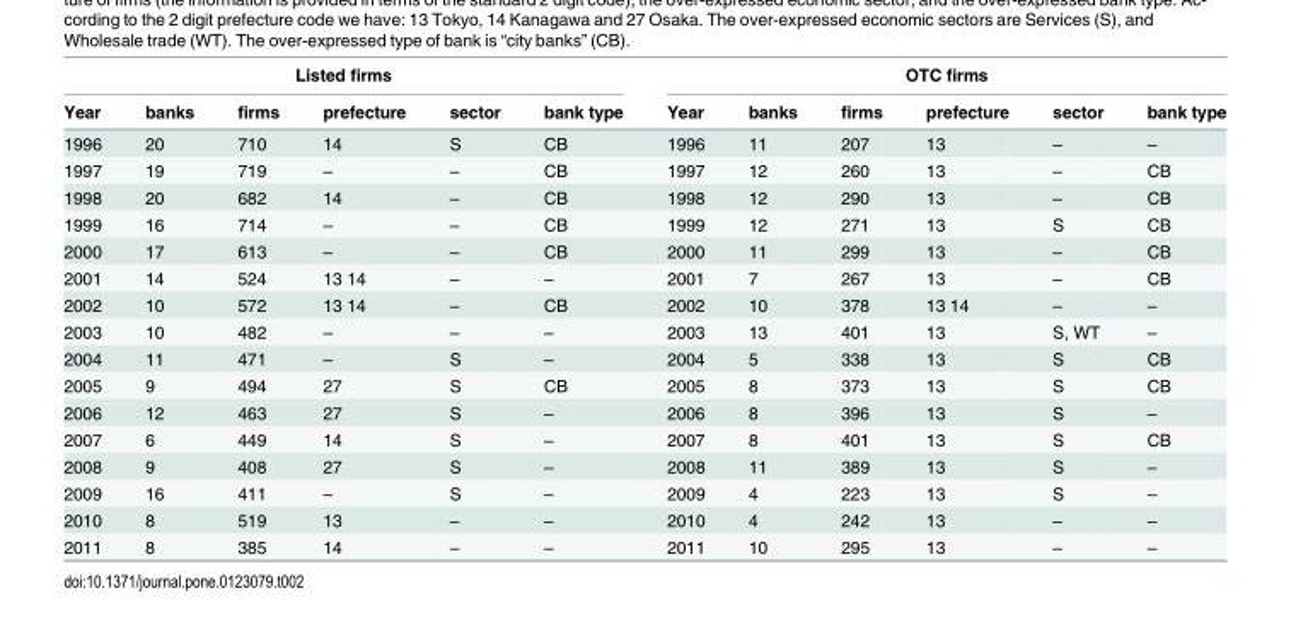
<table><thead><tr><td colspan="6">Listed firms</td><td colspan="6">OTC firms</td></tr><tr><td>Year</td><td>banks</td><td>firms</td><td>prefecture</td><td>sector</td><td>bank type</td><td>Year</td><td>banks</td><td>firms</td><td>prefecture</td><td>sector</td><td>bank type</td></tr></thead><tbody><tr><td>1996</td><td>20</td><td>710</td><td>14</td><td>S</td><td>CB</td><td>1996</td><td>11</td><td>207</td><td>13</td><td>–</td><td>–</td></tr><tr><td>1997</td><td>19</td><td>719</td><td>–</td><td>–</td><td>CB</td><td>1997</td><td>12</td><td>260</td><td>13</td><td>–</td><td>CB</td></tr><tr><td>1998</td><td>20</td><td>682</td><td>14</td><td>–</td><td>CB</td><td>1998</td><td>12</td><td>290</td><td>13</td><td>–</td><td>CB</td></tr><tr><td>1999</td><td>16</td><td>714</td><td>–</td><td>–</td><td>CB</td><td>1999</td><td>12</td><td>271</td><td>13</td><td>S</td><td>CB</td></tr><tr><td>2000</td><td>17</td><td>613</td><td>–</td><td>–</td><td>CB</td><td>2000</td><td>11</td><td>299</td><td>13</td><td>–</td><td>CB</td></tr><tr><td>2001</td><td>14</td><td>524</td><td>13 14</td><td>–</td><td>–</td><td>2001</td><td>7</td><td>267</td><td>13</td><td>–</td><td>CB</td></tr><tr><td>2002</td><td>10</td><td>572</td><td>13 14</td><td>–</td><td>CB</td><td>2002</td><td>10</td><td>378</td><td>13 14</td><td>–</td><td>–</td></tr><tr><td>2003</td><td>10</td><td>482</td><td>–</td><td>–</td><td>–</td><td>2003</td><td>13</td><td>401</td><td>13</td><td>S, WT</td><td>–</td></tr><tr><td>2004</td><td>11</td><td>471</td><td>–</td><td>S</td><td>–</td><td>2004</td><td>5</td><td>338</td><td>13</td><td>S</td><td>CB</td></tr><tr><td>2005</td><td>9</td><td>494</td><td>27</td><td>S</td><td>CB</td><td>2005</td><td>8</td><td>373</td><td>13</td><td>S</td><td>CB</td></tr><tr><td>2006</td><td>12</td><td>463</td><td>27</td><td>S</td><td>–</td><td>2006</td><td>8</td><td>396</td><td>13</td><td>S</td><td>–</td></tr><tr><td>2007</td><td>6</td><td>449</td><td>14</td><td>S</td><td>–</td><td>2007</td><td>8</td><td>401</td><td>13</td><td>S</td><td>CB</td></tr><tr><td>2008</td><td>9</td><td>408</td><td>27</td><td>S</td><td>–</td><td>2008</td><td>11</td><td>389</td><td>13</td><td>S</td><td>–</td></tr><tr><td>2009</td><td>16</td><td>411</td><td>–</td><td>S</td><td>–</td><td>2009</td><td>4</td><td>223</td><td>13</td><td>S</td><td>–</td></tr><tr><td>2010</td><td>8</td><td>519</td><td>13</td><td>–</td><td>–</td><td>2010</td><td>4</td><td>242</td><td>13</td><td>–</td><td>–</td></tr><tr><td>2011</td><td>8</td><td>385</td><td>14</td><td>–</td><td>–</td><td>2011</td><td>10</td><td>295</td><td>13</td><td>–</td><td>–</td></tr></tbody></table>